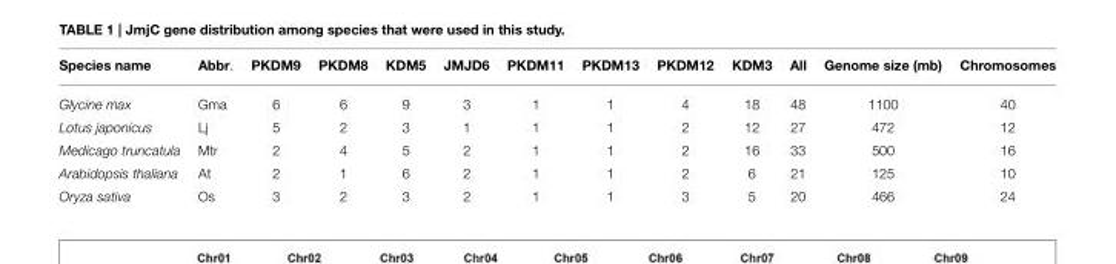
<table><thead><tr><td>Species name</td><td>Abbr.</td><td>PKDM9</td><td>PKDM8</td><td>KDM5</td><td>JMJD6</td><td>PKDM11</td><td>PKDM13</td><td>PKDM12</td><td>KDM3</td><td>All</td><td>Genome size (mb)</td><td>Chromosomes</td></tr></thead><tbody><tr><td>Glycine max</td><td>Gma</td><td>6</td><td>6</td><td>9</td><td>3</td><td>1</td><td>1</td><td>4</td><td>18</td><td>48</td><td>1100</td><td>40</td></tr><tr><td>Lotus japonicus</td><td>Lj</td><td>5</td><td>2</td><td>3</td><td>1</td><td>1</td><td>1</td><td>2</td><td>12</td><td>27</td><td>472</td><td>12</td></tr><tr><td>Medicago truncatula</td><td>Mtr</td><td>2</td><td>4</td><td>5</td><td>2</td><td>1</td><td>1</td><td>2</td><td>16</td><td>33</td><td>500</td><td>16</td></tr><tr><td>Arabidopsis thaliana</td><td>At</td><td>2</td><td>1</td><td>6</td><td>2</td><td>1</td><td>1</td><td>2</td><td>6</td><td>21</td><td>125</td><td>10</td></tr><tr><td>Oryza sativa</td><td>Os</td><td>3</td><td>2</td><td>3</td><td>2</td><td>1</td><td>1</td><td>3</td><td>5</td><td>20</td><td>466</td><td>24</td></tr></tbody></table>